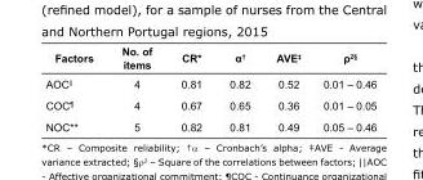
<table><tbody><tr><td>Factors</td><td>No. of items</td><td>CR*</td><td>α<sup>†</sup></td><td>AVE<sup>‡</sup></td><td>ρ<sup>2§</sup></td></tr><tr><td>AOC<sup>||</sup></td><td>4</td><td>0.81</td><td>0.82</td><td>0.52</td><td>0.01 – 0.46</td></tr><tr><td>COC<sup>¶</sup></td><td>4</td><td>0.67</td><td>0.65</td><td>0.36</td><td>0.01 – 0.05</td></tr><tr><td>NOC**</td><td>5</td><td>0.82</td><td>0.81</td><td>0.49</td><td>0.05 – 0.46</td></tr></tbody></table>